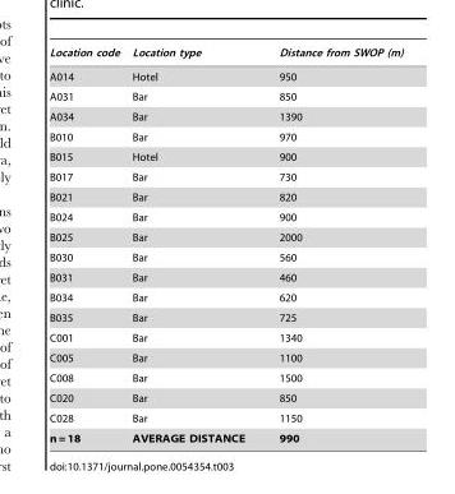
<table><thead><tr><td>Location code</td><td>Location type</td><td>Distance from SWOP (m)</td></tr></thead><tbody><tr><td>A014</td><td>Hotel</td><td>950</td></tr><tr><td>A031</td><td>Bar</td><td>850</td></tr><tr><td>A034</td><td>Bar</td><td>1390</td></tr><tr><td>B010</td><td>Bar</td><td>970</td></tr><tr><td>B015</td><td>Hotel</td><td>900</td></tr><tr><td>B017</td><td>Bar</td><td>730</td></tr><tr><td>B021</td><td>Bar</td><td>820</td></tr><tr><td>B024</td><td>Bar</td><td>900</td></tr><tr><td>B025</td><td>Bar</td><td>2000</td></tr><tr><td>B030</td><td>Bar</td><td>560</td></tr><tr><td>B031</td><td>Bar</td><td>460</td></tr><tr><td>B034</td><td>Bar</td><td>620</td></tr><tr><td>B035</td><td>Bar</td><td>725</td></tr><tr><td>C001</td><td>Bar</td><td>1340</td></tr><tr><td>C005</td><td>Bar</td><td>1100</td></tr><tr><td>C008</td><td>Bar</td><td>1500</td></tr><tr><td>C020</td><td>Bar</td><td>850</td></tr><tr><td>C028</td><td>Bar</td><td>1150</td></tr><tr><td>n = 18</td><td>AVERAGE DISTANCE</td><td>990</td></tr></tbody></table>